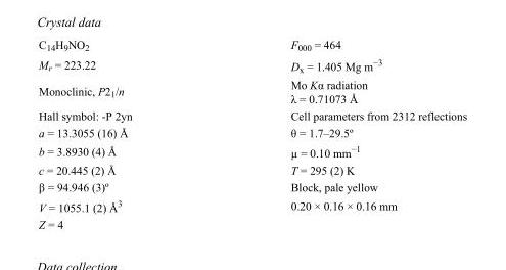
<table><tbody><tr><td>C<sub>14</sub>H<sub>9</sub>NO<sub>2</sub></td><td>F000 = 464</td></tr><tr><td>M<sub>r</sub> = 223.22</td><td>D<sub>x</sub> = 1.405 Mg m<sup>−3</sup></td></tr><tr><td>Monoclinic, P2<sub>1</sub>/n</td><td>Mo Kα radiation λ = 0.71073 Å</td></tr><tr><td>Hall symbol: -P 2yn</td><td>Cell parameters from 2312 reflections</td></tr><tr><td>a = 13.3055 (16) Å</td><td>θ = 1.7–29.5º</td></tr><tr><td>b = 3.8930 (4) Å</td><td>µ = 0.10 mm<sup>−1</sup></td></tr><tr><td>c = 20.445 (2) Å</td><td>T = 295 (2) K</td></tr><tr><td>β = 94.946 (3)º</td><td>Block, pale yellow</td></tr><tr><td>V = 1055.1 (2) Å<sup>3</sup></td><td>0.20 × 0.16 × 0.16 mm</td></tr><tr><td>Z = 4</td><td></td></tr></tbody></table>